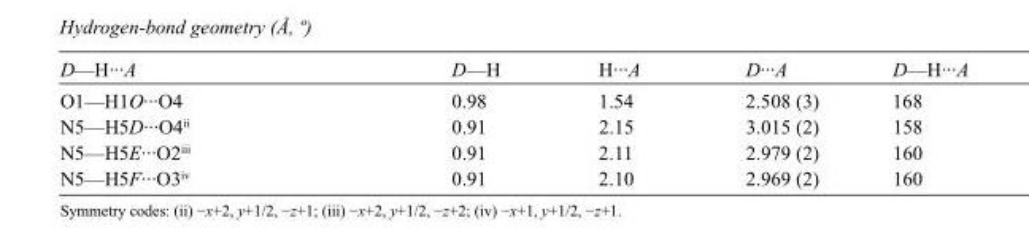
<table><tbody><tr><td>D—H···A</td><td>D—H</td><td>H···A</td><td>D···A</td><td>D—H···A</td></tr><tr><td>O1—H1O···O4</td><td>0.98</td><td>1.54</td><td>2.508 (3)</td><td>168</td></tr><tr><td>N5—H5D···O4<sup>ii</sup></td><td>0.91</td><td>2.15</td><td>3.015 (2)</td><td>158</td></tr><tr><td>N5—H5E···O2<sup>iii</sup></td><td>0.91</td><td>2.11</td><td>2.979 (2)</td><td>160</td></tr><tr><td>N5—H5F···O3<sup>iv</sup></td><td>0.91</td><td>2.10</td><td>2.969 (2)</td><td>160</td></tr></tbody></table>